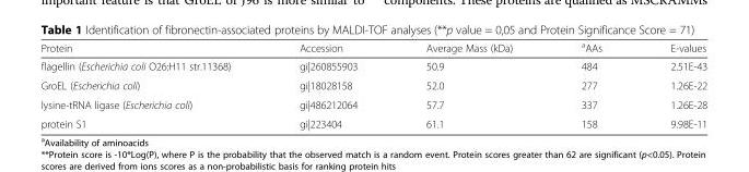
<table><thead><tr><td>Protein</td><td>Accession</td><td>Average Mass (kDa)</td><td><sup>a</sup>AAs</td><td>E-values</td></tr></thead><tbody><tr><td>flagellin (Escherichia coli O26:H11 str.11368)</td><td>gi|260855903</td><td>50.9</td><td>484</td><td>2.51E-43</td></tr><tr><td>GroEL (Escherichia coli)</td><td>gi|18028158</td><td>52.0</td><td>277</td><td>1.26E-22</td></tr><tr><td>lysine-tRNA ligase (Escherichia coli)</td><td>gi|486212064</td><td>57.7</td><td>337</td><td>1.26E-28</td></tr><tr><td>protein S1</td><td>gi|223404</td><td>61.1</td><td>158</td><td>9.98E-11</td></tr></tbody></table>